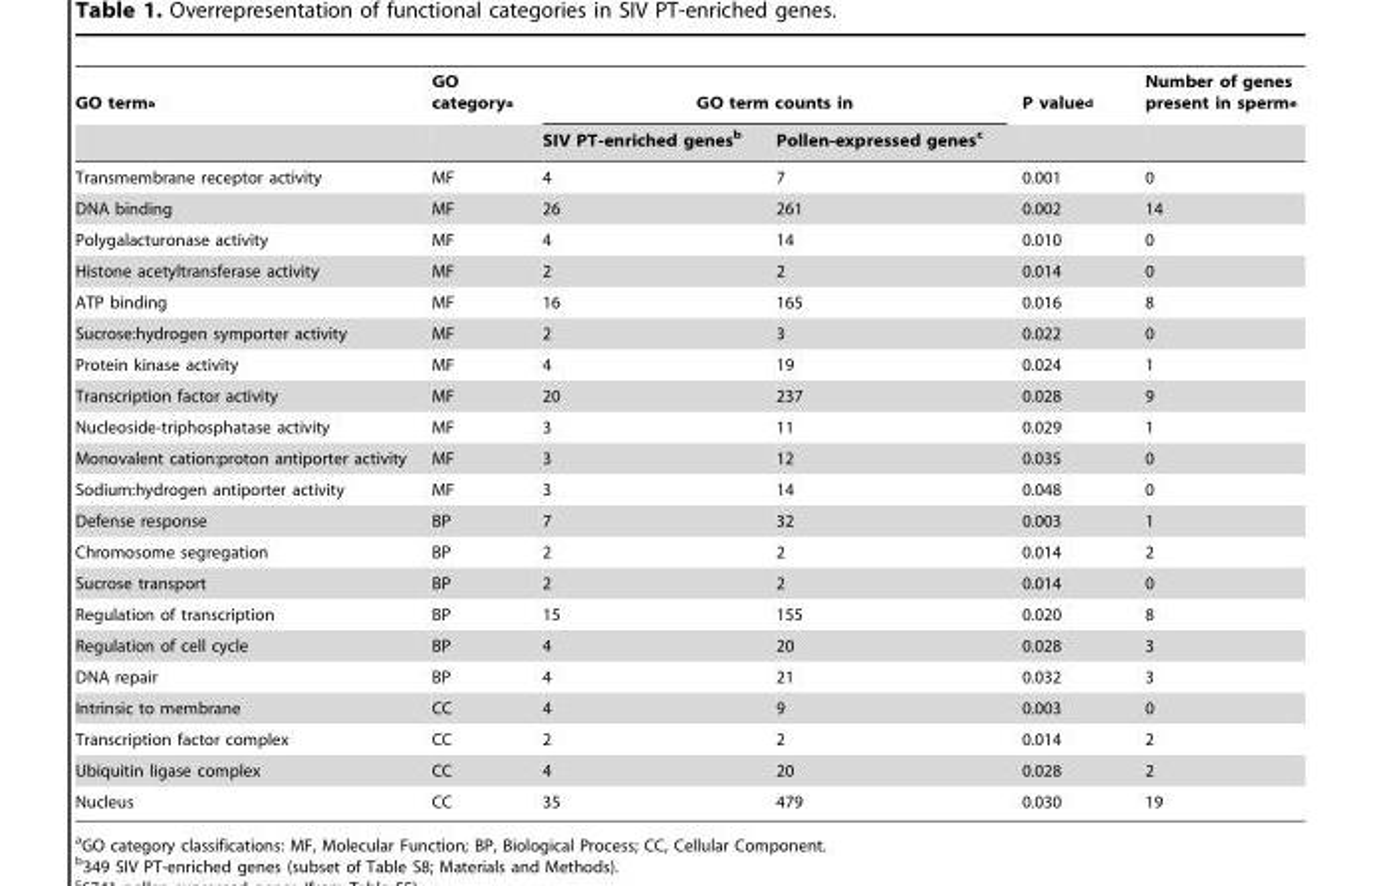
<table><thead><tr><td rowspan="2">GO term<sup>a</sup></td><td rowspan="2">GO category<sup>a</sup></td><td colspan="2">GO term counts in</td><td rowspan="2">P value<sup>d</sup></td><td rowspan="2">Number of genes present in sperm<sup>e</sup></td></tr><tr><td>SIV PT-enriched genes<sup>b</sup></td><td>Pollen-expressed genes<sup>c</sup></td></tr></thead><tbody><tr><td>Transmembrane receptor activity</td><td>MF</td><td>4</td><td>7</td><td>0.001</td><td>0</td></tr><tr><td>DNA binding</td><td>MF</td><td>26</td><td>261</td><td>0.002</td><td>14</td></tr><tr><td>Polygalacturonase activity</td><td>MF</td><td>4</td><td>14</td><td>0.010</td><td>0</td></tr><tr><td>Histone acetyltransferase activity</td><td>MF</td><td>2</td><td>2</td><td>0.014</td><td>0</td></tr><tr><td>ATP binding</td><td>MF</td><td>16</td><td>165</td><td>0.016</td><td>8</td></tr><tr><td>Sucrose:hydrogen symporter activity</td><td>MF</td><td>2</td><td>3</td><td>0.022</td><td>0</td></tr><tr><td>Protein kinase activity</td><td>MF</td><td>4</td><td>19</td><td>0.024</td><td>1</td></tr><tr><td>Transcription factor activity</td><td>MF</td><td>20</td><td>237</td><td>0.028</td><td>9</td></tr><tr><td>Nucleoside-triphosphatase activity</td><td>MF</td><td>3</td><td>11</td><td>0.029</td><td>1</td></tr><tr><td>Monovalent cation:proton antiporter activity</td><td>MF</td><td>3</td><td>12</td><td>0.035</td><td>0</td></tr><tr><td>Sodium:hydrogen antiporter activity</td><td>MF</td><td>3</td><td>14</td><td>0.048</td><td>0</td></tr><tr><td>Defense response</td><td>BP</td><td>7</td><td>32</td><td>0.003</td><td>1</td></tr><tr><td>Chromosome segregation</td><td>BP</td><td>2</td><td>2</td><td>0.014</td><td>2</td></tr><tr><td>Sucrose transport</td><td>BP</td><td>2</td><td>2</td><td>0.014</td><td>0</td></tr><tr><td>Regulation of transcription</td><td>BP</td><td>15</td><td>155</td><td>0.020</td><td>8</td></tr><tr><td>Regulation of cell cycle</td><td>BP</td><td>4</td><td>20</td><td>0.028</td><td>3</td></tr><tr><td>DNA repair</td><td>BP</td><td>4</td><td>21</td><td>0.032</td><td>3</td></tr><tr><td>Intrinsic to membrane</td><td>CC</td><td>4</td><td>9</td><td>0.003</td><td>0</td></tr><tr><td>Transcription factor complex</td><td>CC</td><td>2</td><td>2</td><td>0.014</td><td>2</td></tr><tr><td>Ubiquitin ligase complex</td><td>CC</td><td>4</td><td>20</td><td>0.028</td><td>2</td></tr><tr><td>Nucleus</td><td>CC</td><td>35</td><td>479</td><td>0.030</td><td>19</td></tr></tbody></table>